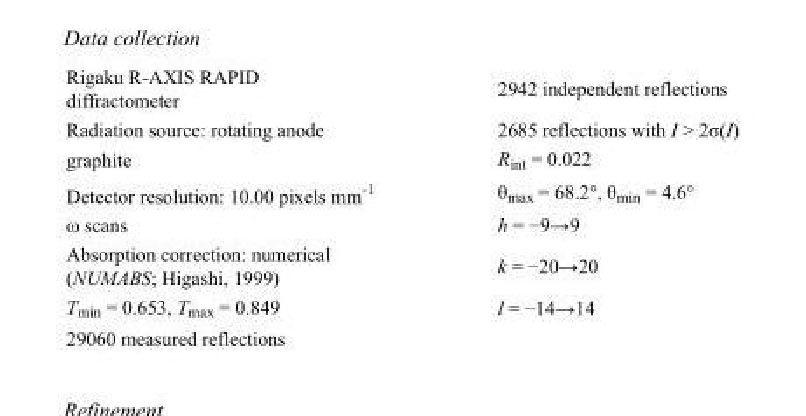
<table><tbody><tr><td>Rigaku R-AXIS RAPID diffractometer</td><td>2942 independent reflections</td></tr><tr><td>Radiation source: rotating anode</td><td>2685 reflections with I &gt; 2σ(I)</td></tr><tr><td>graphite</td><td>R<sub>int</sub> = 0.022</td></tr><tr><td>Detector resolution: 10.00 pixels mm<sup>-1</sup></td><td>θ<sub>max</sub> = 68.2°, θ<sub>min</sub> = 4.6°</td></tr><tr><td>ω scans</td><td>h = −9→9</td></tr><tr><td>Absorption correction: numerical (NUMABS; Higashi, 1999)</td><td>k = −20→20</td></tr><tr><td>T<sub>min</sub> = 0.653, T<sub>max</sub> = 0.849</td><td>l = −14→14</td></tr><tr><td>29060 measured reflections</td><td></td></tr></tbody></table>